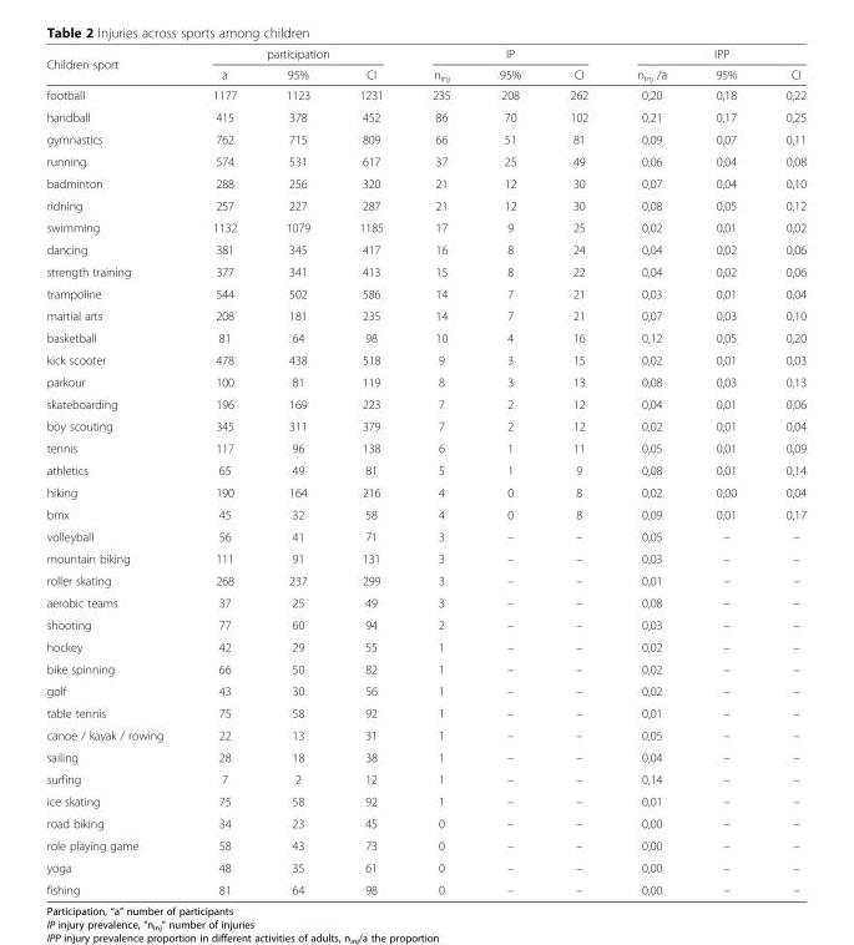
<table><thead><tr><td rowspan="2">Children sport</td><td colspan="3">participation</td><td colspan="3">IP</td><td colspan="3">IPP</td></tr><tr><td>a</td><td>95%</td><td>CI</td><td>n<sub>inj</sub></td><td>95%</td><td>CI</td><td>n<sub>inj</sub> /a</td><td>95%</td><td>CI</td></tr></thead><tbody><tr><td>football</td><td>1177</td><td>1123</td><td>1231</td><td>235</td><td>208</td><td>262</td><td>0,20</td><td>0,18</td><td>0,22</td></tr><tr><td>handball</td><td>415</td><td>378</td><td>452</td><td>86</td><td>70</td><td>102</td><td>0,21</td><td>0,17</td><td>0,25</td></tr><tr><td>gymnastics</td><td>762</td><td>715</td><td>809</td><td>66</td><td>51</td><td>81</td><td>0,09</td><td>0,07</td><td>0,11</td></tr><tr><td>running</td><td>574</td><td>531</td><td>617</td><td>37</td><td>25</td><td>49</td><td>0,06</td><td>0,04</td><td>0,08</td></tr><tr><td>badminton</td><td>288</td><td>256</td><td>320</td><td>21</td><td>12</td><td>30</td><td>0,07</td><td>0,04</td><td>0,10</td></tr><tr><td>ridning</td><td>257</td><td>227</td><td>287</td><td>21</td><td>12</td><td>30</td><td>0,08</td><td>0,05</td><td>0,12</td></tr><tr><td>swimming</td><td>1132</td><td>1079</td><td>1185</td><td>17</td><td>9</td><td>25</td><td>0,02</td><td>0,01</td><td>0,02</td></tr><tr><td>dancing</td><td>381</td><td>345</td><td>417</td><td>16</td><td>8</td><td>24</td><td>0,04</td><td>0,02</td><td>0,06</td></tr><tr><td>strength training</td><td>377</td><td>341</td><td>413</td><td>15</td><td>8</td><td>22</td><td>0,04</td><td>0,02</td><td>0,06</td></tr><tr><td>trampoline</td><td>544</td><td>502</td><td>586</td><td>14</td><td>7</td><td>21</td><td>0,03</td><td>0,01</td><td>0,04</td></tr><tr><td>martial arts</td><td>208</td><td>181</td><td>235</td><td>14</td><td>7</td><td>21</td><td>0,07</td><td>0,03</td><td>0,10</td></tr><tr><td>basketball</td><td>81</td><td>64</td><td>98</td><td>10</td><td>4</td><td>16</td><td>0,12</td><td>0,05</td><td>0,20</td></tr><tr><td>kick scooter</td><td>478</td><td>438</td><td>518</td><td>9</td><td>3</td><td>15</td><td>0,02</td><td>0,01</td><td>0,03</td></tr><tr><td>parkour</td><td>100</td><td>81</td><td>119</td><td>8</td><td>3</td><td>13</td><td>0,08</td><td>0,03</td><td>0,13</td></tr><tr><td>skateboarding</td><td>196</td><td>169</td><td>223</td><td>7</td><td>2</td><td>12</td><td>0,04</td><td>0,01</td><td>0,06</td></tr><tr><td>boy scouting</td><td>345</td><td>311</td><td>379</td><td>7</td><td>2</td><td>12</td><td>0,02</td><td>0,01</td><td>0,04</td></tr><tr><td>tennis</td><td>117</td><td>96</td><td>138</td><td>6</td><td>1</td><td>11</td><td>0,05</td><td>0,01</td><td>0,09</td></tr><tr><td>athletics</td><td>65</td><td>49</td><td>81</td><td>5</td><td>1</td><td>9</td><td>0,08</td><td>0,01</td><td>0,14</td></tr><tr><td>hiking</td><td>190</td><td>164</td><td>216</td><td>4</td><td>0</td><td>8</td><td>0,02</td><td>0,00</td><td>0,04</td></tr><tr><td>bmx</td><td>45</td><td>32</td><td>58</td><td>4</td><td>0</td><td>8</td><td>0,09</td><td>0,01</td><td>0,17</td></tr><tr><td>volleyball</td><td>56</td><td>41</td><td>71</td><td>3</td><td>–</td><td>–</td><td>0,05</td><td>–</td><td>–</td></tr><tr><td>mountain biking</td><td>111</td><td>91</td><td>131</td><td>3</td><td>–</td><td>–</td><td>0,03</td><td>–</td><td>–</td></tr><tr><td>roller skating</td><td>268</td><td>237</td><td>299</td><td>3</td><td>–</td><td>–</td><td>0,01</td><td>–</td><td>–</td></tr><tr><td>aerobic teams</td><td>37</td><td>25</td><td>49</td><td>3</td><td>–</td><td>–</td><td>0,08</td><td>–</td><td>–</td></tr><tr><td>shooting</td><td>77</td><td>60</td><td>94</td><td>2</td><td>–</td><td>–</td><td>0,03</td><td>–</td><td>–</td></tr><tr><td>hockey</td><td>42</td><td>29</td><td>55</td><td>1</td><td>–</td><td>–</td><td>0,02</td><td>–</td><td>–</td></tr><tr><td>bike spinning</td><td>66</td><td>50</td><td>82</td><td>1</td><td>–</td><td>–</td><td>0,02</td><td>–</td><td>–</td></tr><tr><td>golf</td><td>43</td><td>30</td><td>56</td><td>1</td><td>–</td><td>–</td><td>0,02</td><td>–</td><td>–</td></tr><tr><td>table tennis</td><td>75</td><td>58</td><td>92</td><td>1</td><td>–</td><td>–</td><td>0,01</td><td>–</td><td>–</td></tr><tr><td>canoe / kayak / rowing</td><td>22</td><td>13</td><td>31</td><td>1</td><td>–</td><td>–</td><td>0,05</td><td>–</td><td>–</td></tr><tr><td>sailing</td><td>28</td><td>18</td><td>38</td><td>1</td><td>–</td><td>–</td><td>0,04</td><td>–</td><td>–</td></tr><tr><td>surfing</td><td>7</td><td>2</td><td>12</td><td>1</td><td>–</td><td>–</td><td>0,14</td><td>–</td><td>–</td></tr><tr><td>ice skating</td><td>75</td><td>58</td><td>92</td><td>1</td><td>–</td><td>–</td><td>0,01</td><td>–</td><td>–</td></tr><tr><td>road biking</td><td>34</td><td>23</td><td>45</td><td>0</td><td>–</td><td>–</td><td>0,00</td><td>–</td><td>–</td></tr><tr><td>role playing game</td><td>58</td><td>43</td><td>73</td><td>0</td><td>–</td><td>–</td><td>0,00</td><td>–</td><td>–</td></tr><tr><td>yoga</td><td>48</td><td>35</td><td>61</td><td>0</td><td>–</td><td>–</td><td>0,00</td><td>–</td><td>–</td></tr><tr><td>fishing</td><td>81</td><td>64</td><td>98</td><td>0</td><td>–</td><td>–</td><td>0,00</td><td>–</td><td>–</td></tr></tbody></table>